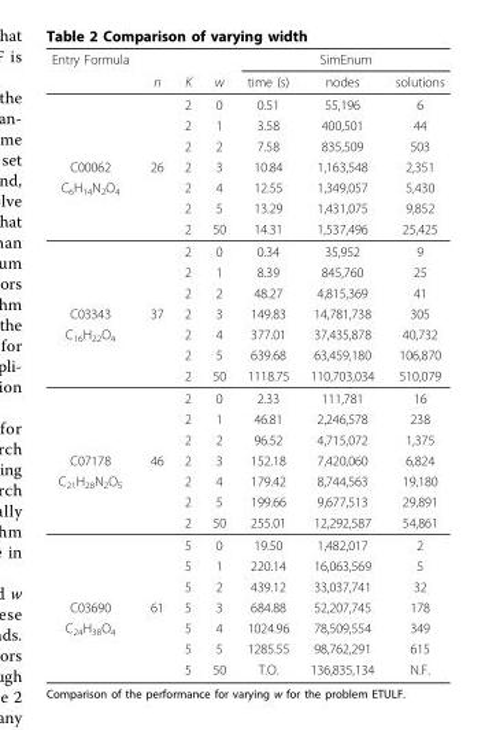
<table><thead><tr><td rowspan="2">Entry Formula</td><td rowspan="2">n</td><td rowspan="2">K</td><td rowspan="2">w</td><td colspan="3">SimEnum</td></tr><tr><td>time (s)</td><td>nodes</td><td>solutions</td></tr></thead><tbody><tr><td></td><td></td><td>2</td><td>0</td><td>0.51</td><td>55,196</td><td>6</td></tr><tr><td></td><td></td><td>2</td><td>1</td><td>3.58</td><td>400,501</td><td>44</td></tr><tr><td></td><td></td><td>2</td><td>2</td><td>7.58</td><td>835,509</td><td>503</td></tr><tr><td>C00062</td><td>26</td><td>2</td><td>3</td><td>10.84</td><td>1,163,548</td><td>2,351</td></tr><tr><td rowspan="6">C<sub>6</sub>H<sub>14</sub>N<sub>2</sub>O<sub>4</sub></td><td></td><td>2</td><td>4</td><td>12.55</td><td>1,349,057</td><td>5,430</td></tr><tr><td></td><td>2</td><td>5</td><td>13.29</td><td>1,431,075</td><td>9,852</td></tr><tr><td></td><td>2</td><td>50</td><td>14.31</td><td>1,537,496</td><td>25,425</td></tr><tr><td></td><td>2</td><td>0</td><td>0.34</td><td>35,952</td><td>9</td></tr><tr><td></td><td>2</td><td>1</td><td>8.39</td><td>845,760</td><td>25</td></tr><tr><td></td><td>2</td><td>2</td><td>48.27</td><td>4,815,369</td><td>41</td></tr><tr><td>C03343</td><td>37</td><td>2</td><td>3</td><td>149.83</td><td>14,781,738</td><td>305</td></tr><tr><td rowspan="6">C<sub>16</sub>H<sub>22</sub>O<sub>4</sub></td><td></td><td>2</td><td>4</td><td>377.01</td><td>37,435,878</td><td>40,732</td></tr><tr><td></td><td>2</td><td>5</td><td>639.68</td><td>63,459,180</td><td>106,870</td></tr><tr><td></td><td>2</td><td>50</td><td>1118.75</td><td>110,703,034</td><td>510,079</td></tr><tr><td></td><td>2</td><td>0</td><td>2.33</td><td>111,781</td><td>16</td></tr><tr><td></td><td>2</td><td>1</td><td>46.81</td><td>2,246,578</td><td>238</td></tr><tr><td></td><td>2</td><td>2</td><td>96.52</td><td>4,715,072</td><td>1,375</td></tr><tr><td>C07178</td><td>46</td><td>2</td><td>3</td><td>152.18</td><td>7,420,060</td><td>6,824</td></tr><tr><td rowspan="6">C<sub>21</sub>H<sub>28</sub>N<sub>2</sub>O<sub>5</sub></td><td></td><td>2</td><td>4</td><td>179.42</td><td>8,744,563</td><td>19,180</td></tr><tr><td></td><td>2</td><td>5</td><td>199.66</td><td>9,677,513</td><td>29,891</td></tr><tr><td></td><td>2</td><td>50</td><td>255.01</td><td>12,292,587</td><td>54,861</td></tr><tr><td></td><td>5</td><td>0</td><td>19.50</td><td>1,482,017</td><td>2</td></tr><tr><td></td><td>5</td><td>1</td><td>220.14</td><td>16,063,569</td><td>5</td></tr><tr><td></td><td>5</td><td>2</td><td>439.12</td><td>33,037,741</td><td>32</td></tr><tr><td>C03690</td><td>61</td><td>5</td><td>3</td><td>684.88</td><td>52,207,745</td><td>178</td></tr><tr><td rowspan="3">C<sub>24</sub>H<sub>38</sub>O<sub>4</sub></td><td></td><td>5</td><td>4</td><td>1024.96</td><td>78,509,554</td><td>349</td></tr><tr><td></td><td>5</td><td>5</td><td>1285.55</td><td>98,762,291</td><td>615</td></tr><tr><td></td><td>5</td><td>50</td><td>T.O.</td><td>136,835,134</td><td>N.F.</td></tr></tbody></table>